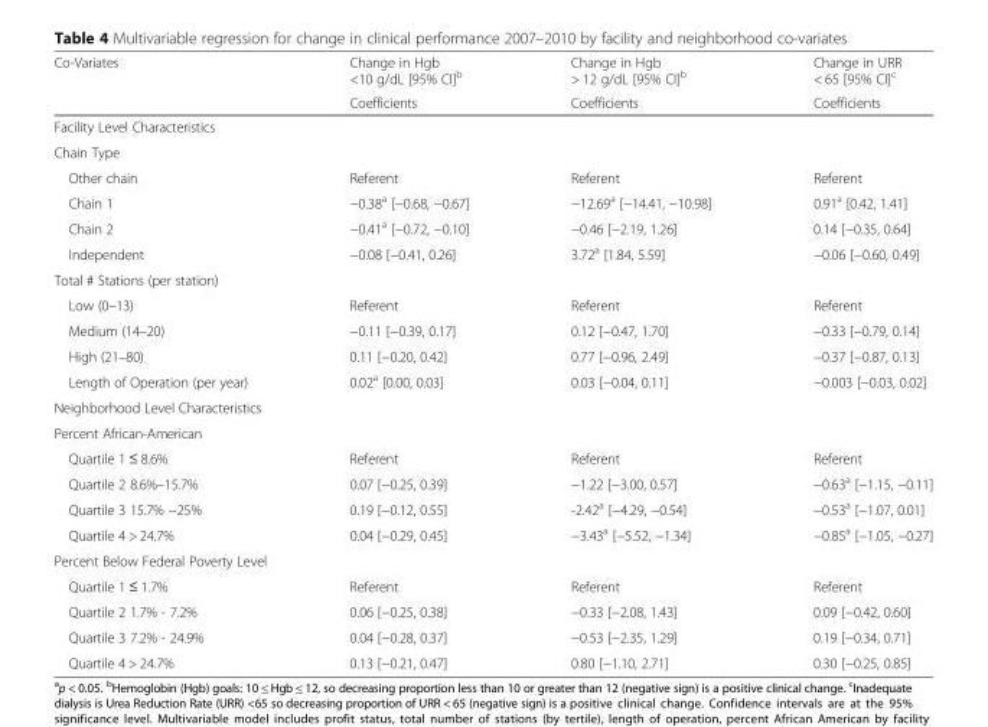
<table><thead><tr><td rowspan="2">Co-Variates</td><td rowspan="2">Change in Hgb &lt;10 g/dL [95% CI]<sup>b</sup> Coefficients</td><td rowspan="2">Change in Hgb &gt; 12 g/dL [95% CI]<sup>b</sup> Coefficients</td><td rowspan="2">Change in URR &lt; 65 [95% CI]<sup>c</sup> Coefficients</td></tr><tr></tr></thead><tbody><tr><td colspan="4">Facility Level Characteristics</td></tr><tr><td colspan="4">Chain Type</td></tr><tr><td>Other chain</td><td>Referent</td><td>Referent</td><td>Referent</td></tr><tr><td>Chain 1</td><td>−0.38<sup>a</sup> [−0.68, −0.67]</td><td>−12.69<sup>a</sup> [−14.41, −10.98]</td><td>0.91<sup>a</sup> [0.42, 1.41]</td></tr><tr><td>Chain 2</td><td>−0.41<sup>a</sup> [−0.72, −0.10]</td><td>−0.46 [−2.19, 1.26]</td><td>0.14 [−0.35, 0.64]</td></tr><tr><td>Independent</td><td>−0.08 [−0.41, 0.26]</td><td>3.72<sup>a</sup> [1.84, 5.59]</td><td>−0.06 [−0.60, 0.49]</td></tr><tr><td colspan="4">Total # Stations (per station)</td></tr><tr><td>Low (0–13)</td><td>Referent</td><td>Referent</td><td>Referent</td></tr><tr><td>Medium (14–20)</td><td>−0.11 [−0.39, 0.17]</td><td>0.12 [−0.47, 1.70]</td><td>−0.33 [−0.79, 0.14]</td></tr><tr><td>High (21–80)</td><td>0.11 [−0.20, 0.42]</td><td>0.77 [−0.96, 2.49]</td><td>−0.37 [−0.87, 0.13]</td></tr><tr><td>Length of Operation (per year)</td><td>0.02<sup>a</sup> [0.00, 0.03]</td><td>0.03 [−0.04, 0.11]</td><td>−0.003 [−0.03, 0.02]</td></tr><tr><td colspan="4">Neighborhood Level Characteristics</td></tr><tr><td colspan="4">Percent African-American</td></tr><tr><td>Quartile 1 ≤ 8.6%</td><td>Referent</td><td>Referent</td><td>Referent</td></tr><tr><td>Quartile 2 8.6%–15.7%</td><td>0.07 [−0.25, 0.39]</td><td>−1.22 [−3.00, 0.57]</td><td>−0.63<sup>a</sup> [−1.15, −0.11]</td></tr><tr><td>Quartile 3 15.7% −25%</td><td>0.19 [−0.12, 0.55]</td><td>-2.42<sup>a</sup> [−4.29, −0.54]</td><td>−0.53<sup>a</sup> [−1.07, 0.01]</td></tr><tr><td>Quartile 4 &gt; 24.7%</td><td>0.04 [−0.29, 0.45]</td><td>−3.43<sup>a</sup> [−5.52, −1.34]</td><td>−0.85<sup>a</sup> [−1.05, −0.27]</td></tr><tr><td colspan="4">Percent Below Federal Poverty Level</td></tr><tr><td>Quartile 1 ≤ 1.7%</td><td>Referent</td><td>Referent</td><td>Referent</td></tr><tr><td>Quartile 2 1.7% - 7.2%</td><td>0.06 [−0.25, 0.38]</td><td>−0.33 [−2.08, 1.43]</td><td>0.09 [−0.42, 0.60]</td></tr><tr><td>Quartile 3 7.2% - 24.9%</td><td>0.04 [−0.28, 0.37]</td><td>−0.53 [−2.35, 1.29]</td><td>0.19 [−0.34, 0.71]</td></tr><tr><td>Quartile 4 &gt; 24.7%</td><td>0.13 [−0.21, 0.47]</td><td>0.80 [−1.10, 2.71]</td><td>0.30 [−0.25, 0.85]</td></tr></tbody></table>